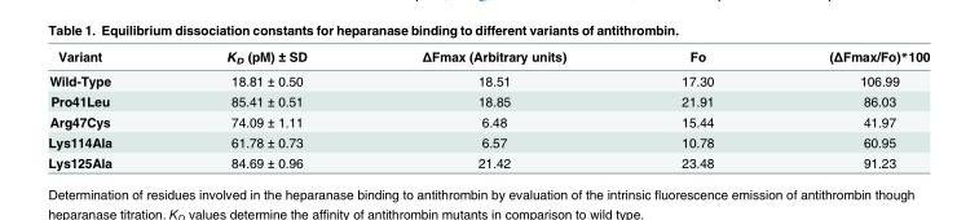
<table><thead><tr><td>Variant</td><td>K<sub>D</sub> (pM) ± SD</td><td>ΔFmax (Arbitrary units)</td><td>Fo</td><td>(ΔFmax/Fo)*100</td></tr></thead><tbody><tr><td>Wild-Type</td><td>18.81 ± 0.50</td><td>18.51</td><td>17.30</td><td>106.99</td></tr><tr><td>Pro41Leu</td><td>85.41 ± 0.51</td><td>18.85</td><td>21.91</td><td>86.03</td></tr><tr><td>Arg47Cys</td><td>74.09 ± 1.11</td><td>6.48</td><td>15.44</td><td>41.97</td></tr><tr><td>Lys114Ala</td><td>61.78 ± 0.73</td><td>6.57</td><td>10.78</td><td>60.95</td></tr><tr><td>Lys125Ala</td><td>84.69 ± 0.96</td><td>21.42</td><td>23.48</td><td>91.23</td></tr></tbody></table>